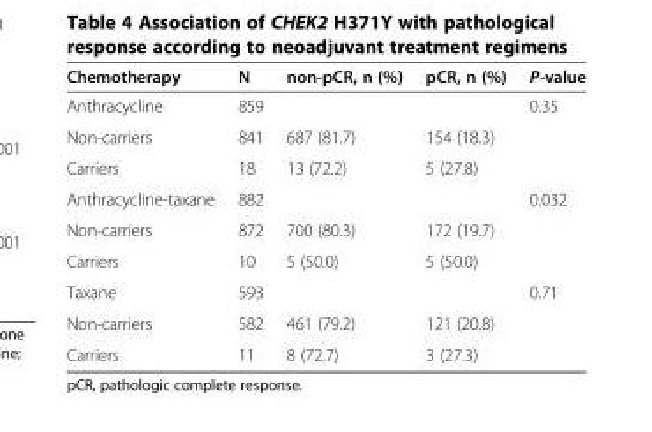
<table><thead><tr><td>Chemotherapy</td><td>N</td><td>non-pCR, n (%)</td><td>pCR, n (%)</td><td>P-value</td></tr></thead><tbody><tr><td>Anthracycline</td><td>859</td><td></td><td></td><td>0.35</td></tr><tr><td>Non-carriers</td><td>841</td><td>687 (81.7)</td><td>154 (18.3)</td><td></td></tr><tr><td>Carriers</td><td>18</td><td>13 (72.2)</td><td>5 (27.8)</td><td></td></tr><tr><td>Anthracycline-taxane</td><td>882</td><td></td><td></td><td>0.032</td></tr><tr><td>Non-carriers</td><td>872</td><td>700 (80.3)</td><td>172 (19.7)</td><td></td></tr><tr><td>Carriers</td><td>10</td><td>5 (50.0)</td><td>5 (50.0)</td><td></td></tr><tr><td>Taxane</td><td>593</td><td></td><td></td><td>0.71</td></tr><tr><td>Non-carriers</td><td>582</td><td>461 (79.2)</td><td>121 (20.8)</td><td></td></tr><tr><td>Carriers</td><td>11</td><td>8 (72.7)</td><td>3 (27.3)</td><td></td></tr></tbody></table>